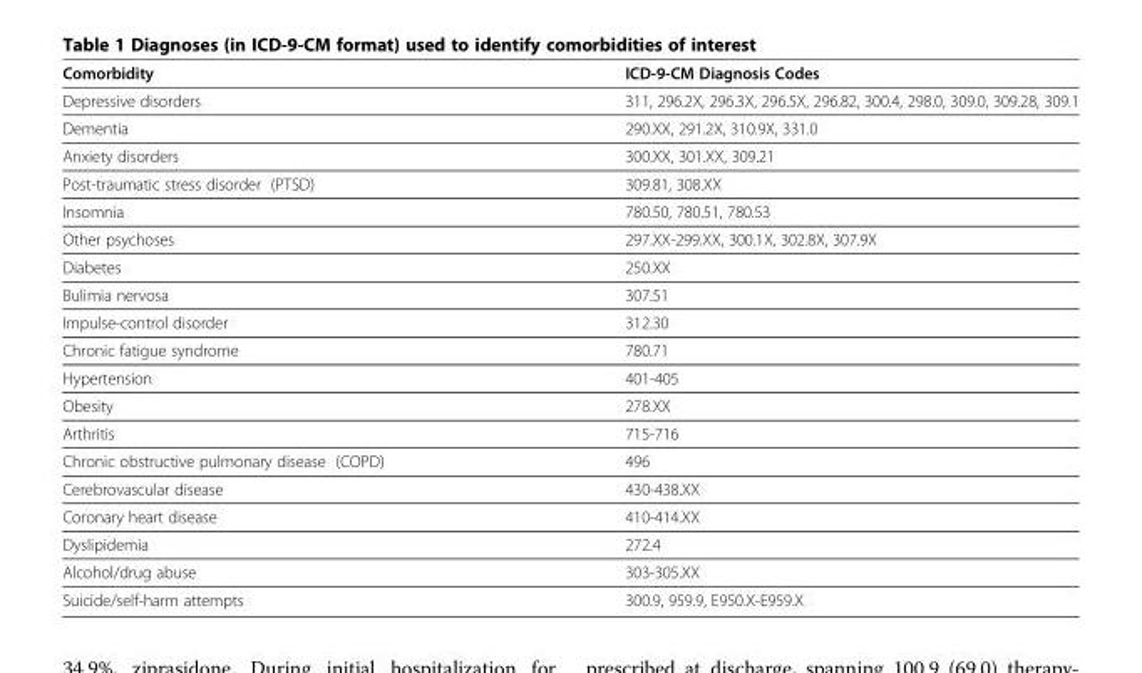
<table><thead><tr><td>Comorbidity</td><td>ICD-9-CM Diagnosis Codes</td></tr></thead><tbody><tr><td>Depressive disorders</td><td>311, 296.2X, 296.3X, 296.5X, 296.82, 300.4, 298.0, 309.0, 309.28, 309.1</td></tr><tr><td>Dementia</td><td>290.XX, 291.2X, 310.9X, 331.0</td></tr><tr><td>Anxiety disorders</td><td>300.XX, 301.XX, 309.21</td></tr><tr><td>Post-traumatic stress disorder (PTSD)</td><td>309.81, 308.XX</td></tr><tr><td>Insomnia</td><td>780.50, 780.51, 780.53</td></tr><tr><td>Other psychoses</td><td>297.XX-299.XX, 300.1X, 302.8X, 307.9X</td></tr><tr><td>Diabetes</td><td>250.XX</td></tr><tr><td>Bulimia nervosa</td><td>307.51</td></tr><tr><td>Impulse-control disorder</td><td>312.30</td></tr><tr><td>Chronic fatigue syndrome</td><td>780.71</td></tr><tr><td>Hypertension</td><td>401-405</td></tr><tr><td>Obesity</td><td>278.XX</td></tr><tr><td>Arthritis</td><td>715-716</td></tr><tr><td>Chronic obstructive pulmonary disease (COPD)</td><td>496</td></tr><tr><td>Cerebrovascular disease</td><td>430-438.XX</td></tr><tr><td>Coronary heart disease</td><td>410-414.XX</td></tr><tr><td>Dyslipidemia</td><td>272.4</td></tr><tr><td>Alcohol/drug abuse</td><td>303-305.XX</td></tr><tr><td>Suicide/self-harm attempts</td><td>300.9, 959.9, E950.X-E959.X</td></tr></tbody></table>